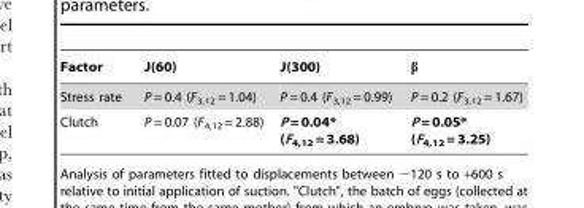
<table><thead><tr><td>Factor</td><td>J(60)</td><td>J(300)</td><td>β</td></tr></thead><tbody><tr><td>Stress rate</td><td>P = 0.4 (F<sub>3,12</sub> = 1.04)</td><td>P = 0.4 (F<sub>3,12</sub> = 0.99)</td><td>P = 0.2 (F<sub>3,12</sub> = 1.67)</td></tr><tr><td>Clutch</td><td>P = 0.07 (F<sub>4,12</sub> = 2.88)</td><td>P = 0.04* (F<sub>4,12</sub> = 3.68)</td><td>P = 0.05* (F<sub>4,12</sub> = 3.25)</td></tr></tbody></table>